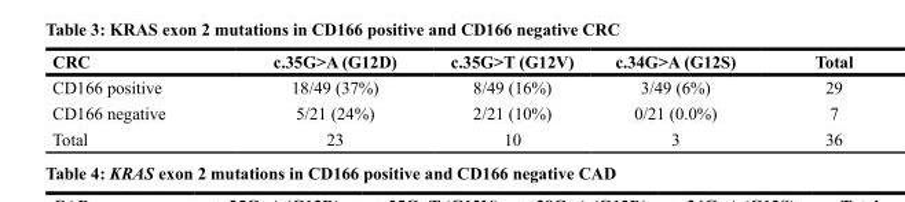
<table><thead><tr><td>CRC</td><td>c.35G&gt;A (G12D)</td><td>c.35G&gt;T (G12V)</td><td>c.34G&gt;A (G12S)</td><td>Total</td></tr></thead><tbody><tr><td>CD166 positive</td><td>18/49 (37%)</td><td>8/49 (16%)</td><td>3/49 (6%)</td><td>29</td></tr><tr><td>CD166 negative</td><td>5/21 (24%)</td><td>2/21 (10%)</td><td>0/21 (0.0%)</td><td>7</td></tr><tr><td>Total</td><td>23</td><td>10</td><td>3</td><td>36</td></tr></tbody></table>